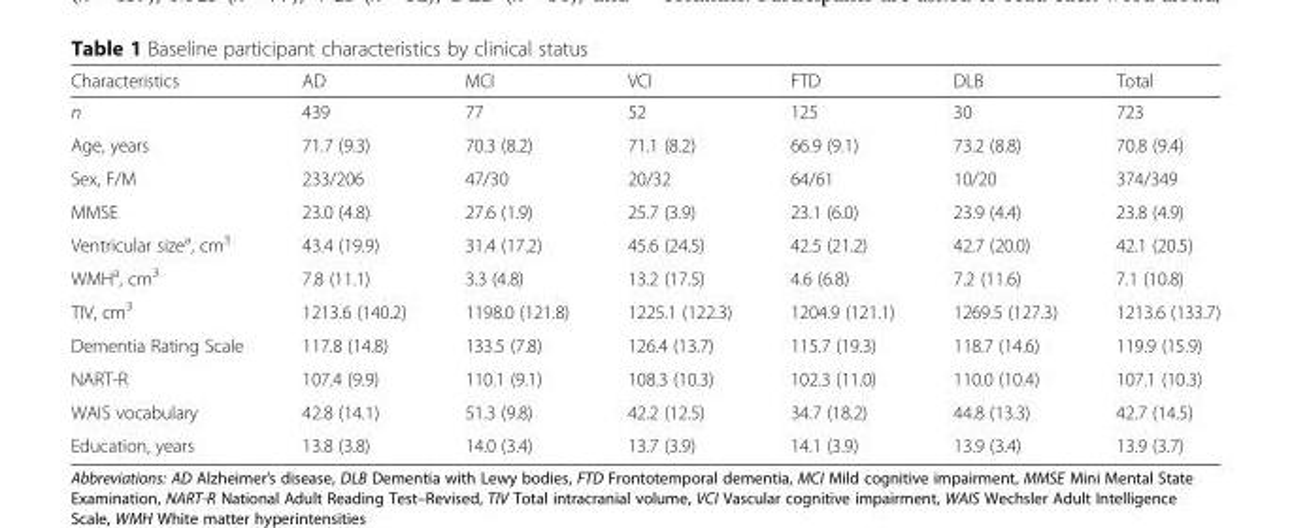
<table><thead><tr><td>Characteristics</td><td>AD</td><td>MCI</td><td>VCI</td><td>FTD</td><td>DLB</td><td>Total</td></tr></thead><tbody><tr><td>n</td><td>439</td><td>77</td><td>52</td><td>125</td><td>30</td><td>723</td></tr><tr><td>Age, years</td><td>71.7 (9.3)</td><td>70.3 (8.2)</td><td>71.1 (8.2)</td><td>66.9 (9.1)</td><td>73.2 (8.8)</td><td>70.8 (9.4)</td></tr><tr><td>Sex, F/M</td><td>233/206</td><td>47/30</td><td>20/32</td><td>64/61</td><td>10/20</td><td>374/349</td></tr><tr><td>MMSE</td><td>23.0 (4.8)</td><td>27.6 (1.9)</td><td>25.7 (3.9)</td><td>23.1 (6.0)</td><td>23.9 (4.4)</td><td>23.8 (4.9)</td></tr><tr><td>Ventricular size<sup>a</sup>, cm<sup>3</sup></td><td>43.4 (19.9)</td><td>31.4 (17.2)</td><td>45.6 (24.5)</td><td>42.5 (21.2)</td><td>42.7 (20.0)</td><td>42.1 (20.5)</td></tr><tr><td>WMH<sup>a</sup>, cm<sup>3</sup></td><td>7.8 (11.1)</td><td>3.3 (4.8)</td><td>13.2 (17.5)</td><td>4.6 (6.8)</td><td>7.2 (11.6)</td><td>7.1 (10.8)</td></tr><tr><td>TIV, cm<sup>3</sup></td><td>1213.6 (140.2)</td><td>1198.0 (121.8)</td><td>1225.1 (122.3)</td><td>1204.9 (121.1)</td><td>1269.5 (127.3)</td><td>1213.6 (133.7)</td></tr><tr><td>Dementia Rating Scale</td><td>117.8 (14.8)</td><td>133.5 (7.8)</td><td>126.4 (13.7)</td><td>115.7 (19.3)</td><td>118.7 (14.6)</td><td>119.9 (15.9)</td></tr><tr><td>NART-R</td><td>107.4 (9.9)</td><td>110.1 (9.1)</td><td>108.3 (10.3)</td><td>102.3 (11.0)</td><td>110.0 (10.4)</td><td>107.1 (10.3)</td></tr><tr><td>WAIS vocabulary</td><td>42.8 (14.1)</td><td>51.3 (9.8)</td><td>42.2 (12.5)</td><td>34.7 (18.2)</td><td>44.8 (13.3)</td><td>42.7 (14.5)</td></tr><tr><td>Education, years</td><td>13.8 (3.8)</td><td>14.0 (3.4)</td><td>13.7 (3.9)</td><td>14.1 (3.9)</td><td>13.9 (3.4)</td><td>13.9 (3.7)</td></tr></tbody></table>